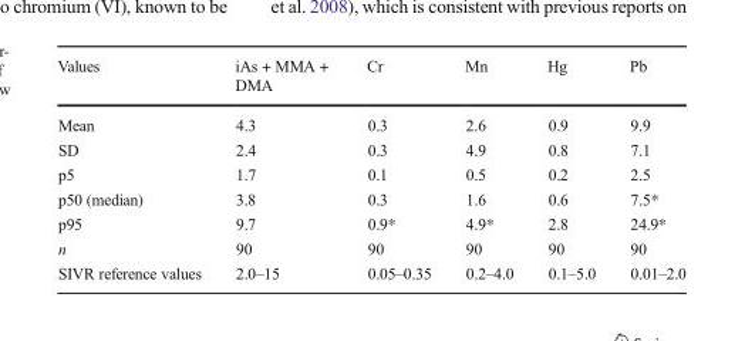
<table><thead><tr><td>Values</td><td>iAs + MMA + DMA</td><td>Cr</td><td>Mn</td><td>Hg</td><td>Pb</td></tr></thead><tbody><tr><td>Mean</td><td>4.3</td><td>0.3</td><td>2.6</td><td>0.9</td><td>9.9</td></tr><tr><td>SD</td><td>2.4</td><td>0.3</td><td>4.9</td><td>0.8</td><td>7.1</td></tr><tr><td>p5</td><td>1.7</td><td>0.1</td><td>0.5</td><td>0.2</td><td>2.5</td></tr><tr><td>p50 (median)</td><td>3.8</td><td>0.3</td><td>1.6</td><td>0.6</td><td>7.5*</td></tr><tr><td>p95</td><td>9.7</td><td>0.9*</td><td>4.9*</td><td>2.8</td><td>24.9*</td></tr><tr><td>n</td><td>90</td><td>90</td><td>90</td><td>90</td><td>90</td></tr><tr><td>SIVR reference values</td><td>2.0–15</td><td>0.05–0.35</td><td>0.2–4.0</td><td>0.1–5.0</td><td>0.01–2.0</td></tr></tbody></table>